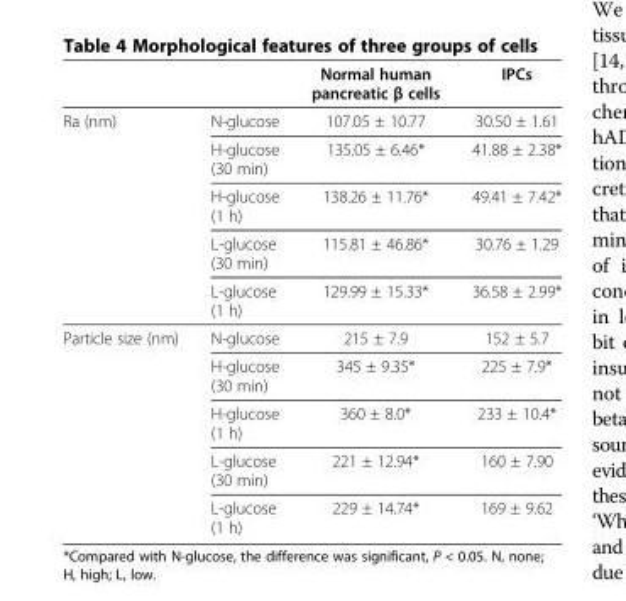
<table><thead><tr><td></td><td></td><td>Normal human pancreatic β cells</td><td>IPCs</td></tr></thead><tbody><tr><td rowspan="5">Ra (nm)</td><td>N-glucose</td><td>107.05 ± 10.77</td><td>30.50 ± 1.61</td></tr><tr><td>H-glucose (30 min)</td><td>135.05 ± 6.46*</td><td>41.88 ± 2.38*</td></tr><tr><td>H-glucose (1 h)</td><td>138.26 ± 11.76*</td><td>49.41 ± 7.42*</td></tr><tr><td>L-glucose (30 min)</td><td>115.81 ± 46.86*</td><td>30.76 ± 1.29</td></tr><tr><td>L-glucose (1 h)</td><td>129.99 ± 15.33*</td><td>36.58 ± 2.99*</td></tr><tr><td rowspan="5">Particle size (nm)</td><td>N-glucose</td><td>215 ± 7.9</td><td>152 ± 5.7</td></tr><tr><td>H-glucose (30 min)</td><td>345 ± 9.35*</td><td>225 ± 7.9*</td></tr><tr><td>H-glucose (1 h)</td><td>360 ± 8.0*</td><td>233 ± 10.4*</td></tr><tr><td>L-glucose (30 min)</td><td>221 ± 12.94*</td><td>160 ± 7.90</td></tr><tr><td>L-glucose (1 h)</td><td>229 ± 14.74*</td><td>169 ± 9.62</td></tr></tbody></table>